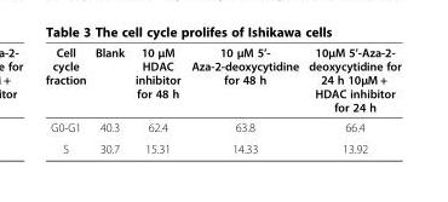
<table><thead><tr><td>Cell cycle fraction</td><td>Blank</td><td>10 μM HDAC inhibitor for 48 h</td><td>10 μM 5’- Aza-2-deoxycytidine for 48 h</td><td>10μM 5’-Aza-2- deoxycytidine for 24 h 10μM + HDAC inhibitor for 24 h</td></tr></thead><tbody><tr><td>G0-G1</td><td>40.3</td><td>62.4</td><td>63.8</td><td>66.4</td></tr><tr><td>S</td><td>30.7</td><td>15.31</td><td>14.33</td><td>13.92</td></tr></tbody></table>